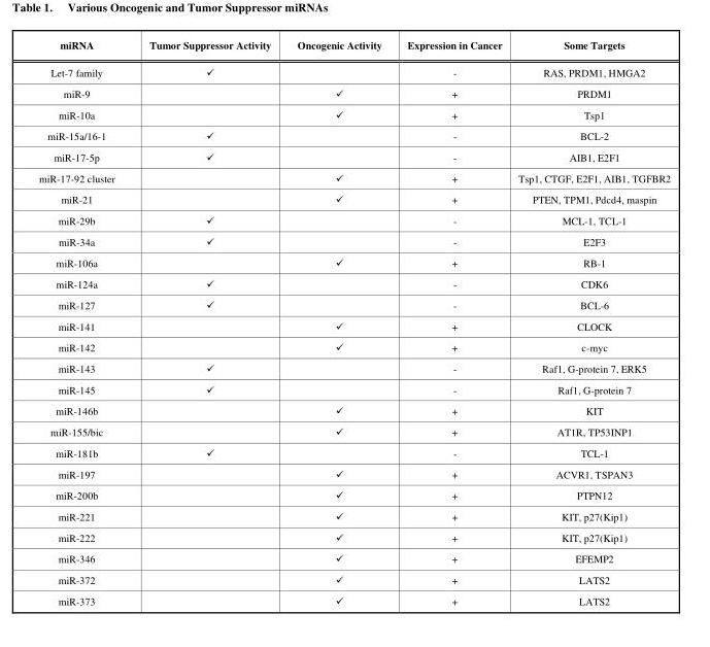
<table><thead><tr><td>miRNA</td><td>Tumor Suppressor Activity</td><td>Oncogenic Activity</td><td>Expression in Cancer</td><td>Some Targets</td></tr></thead><tbody><tr><td>Let-7 family</td><td>✓</td><td></td><td>-</td><td>RAS, PRDM1, HMGA2</td></tr><tr><td>miR-9</td><td></td><td>✓</td><td>+</td><td>PRDM1</td></tr><tr><td>miR-10a</td><td></td><td>✓</td><td>+</td><td>Tsp1</td></tr><tr><td>miR-15a/16-1</td><td>✓</td><td></td><td>-</td><td>BCL-2</td></tr><tr><td>miR-17-5p</td><td>✓</td><td></td><td>-</td><td>AIB1, E2F1</td></tr><tr><td>miR-17-92 cluster</td><td></td><td>✓</td><td>+</td><td>Tsp1, CTGF, E2F1, AIB1, TGFBR2</td></tr><tr><td>miR-21</td><td></td><td>✓</td><td>+</td><td>PTEN, TPM1, Pdcd4, maspin</td></tr><tr><td>miR-29b</td><td>✓</td><td></td><td>-</td><td>MCL-1, TCL-1</td></tr><tr><td>miR-34a</td><td>✓</td><td></td><td>-</td><td>E2F3</td></tr><tr><td>miR-106a</td><td></td><td>✓</td><td>+</td><td>RB-1</td></tr><tr><td>miR-124a</td><td>✓</td><td></td><td>-</td><td>CDK6</td></tr><tr><td>miR-127</td><td>✓</td><td></td><td>-</td><td>BCL-6</td></tr><tr><td>miR-141</td><td></td><td>✓</td><td>+</td><td>CLOCK</td></tr><tr><td>miR-142</td><td></td><td>✓</td><td>+</td><td>c-myc</td></tr><tr><td>miR-143</td><td>✓</td><td></td><td>-</td><td>Raf1, G-protein 7, ERK5</td></tr><tr><td>miR-145</td><td>✓</td><td></td><td>-</td><td>Raf1, G-protein 7</td></tr><tr><td>miR-146b</td><td></td><td>✓</td><td>+</td><td>KIT</td></tr><tr><td>miR-155/bic</td><td></td><td>✓</td><td>+</td><td>AT1R, TP53INP1</td></tr><tr><td>miR-181b</td><td>✓</td><td></td><td>-</td><td>TCL-1</td></tr><tr><td>miR-197</td><td></td><td>✓</td><td>+</td><td>ACVR1, TSPAN3</td></tr><tr><td>miR-200b</td><td></td><td>✓</td><td>+</td><td>PTPN12</td></tr><tr><td>miR-221</td><td></td><td>✓</td><td>+</td><td>KIT, p27(Kip1)</td></tr><tr><td>miR-222</td><td></td><td>✓</td><td>+</td><td>KIT, p27(Kip1)</td></tr><tr><td>miR-346</td><td></td><td>✓</td><td>+</td><td>EFEMP2</td></tr><tr><td>miR-372</td><td></td><td>✓</td><td>+</td><td>LATS2</td></tr><tr><td>miR-373</td><td></td><td>✓</td><td>+</td><td>LATS2</td></tr></tbody></table>